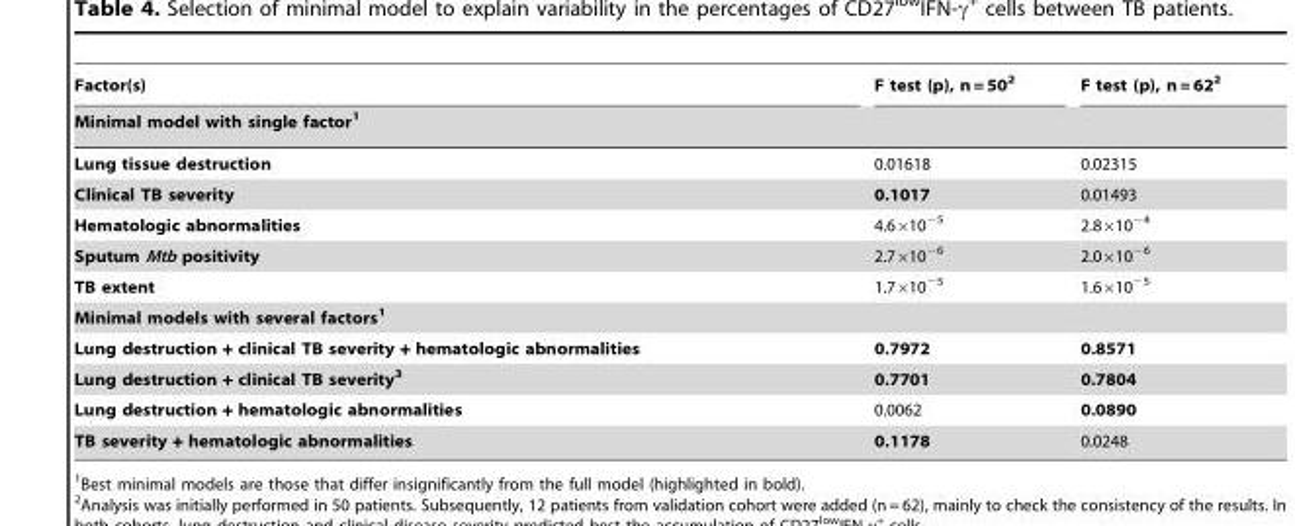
<table><thead><tr><td>Factor(s)</td><td>F test (p), n = 50<sup>2</sup></td><td>F test (p), n = 62<sup>2</sup></td></tr><tr><td colspan="3">Minimal model with single factor<sup>1</sup></td></tr></thead><tbody><tr><td>Lung tissue destruction</td><td>0.01618</td><td>0.02315</td></tr><tr><td>Clinical TB severity</td><td>0.1017</td><td>0.01493</td></tr><tr><td>Hematologic abnormalities</td><td>4.6×10<sup>−5</sup></td><td>2.8×10<sup>−4</sup></td></tr><tr><td>Sputum Mtb positivity</td><td>2.7×10<sup>−6</sup></td><td>2.0×10<sup>−6</sup></td></tr><tr><td>TB extent</td><td>1.7×10<sup>−5</sup></td><td>1.6×10<sup>−5</sup></td></tr><tr><td colspan="3">Minimal models with several factors1</td></tr><tr><td>Lung destruction + clinical TB severity + hematologic abnormalities</td><td>0.7972</td><td>0.8571</td></tr><tr><td>Lung destruction + clinical TB severity3</td><td>0.7701</td><td>0.7804</td></tr><tr><td>Lung destruction + hematologic abnormalities</td><td>0.0062</td><td>0.0890</td></tr><tr><td>TB severity + hematologic abnormalities</td><td>0.1178</td><td>0.0248</td></tr></tbody></table>